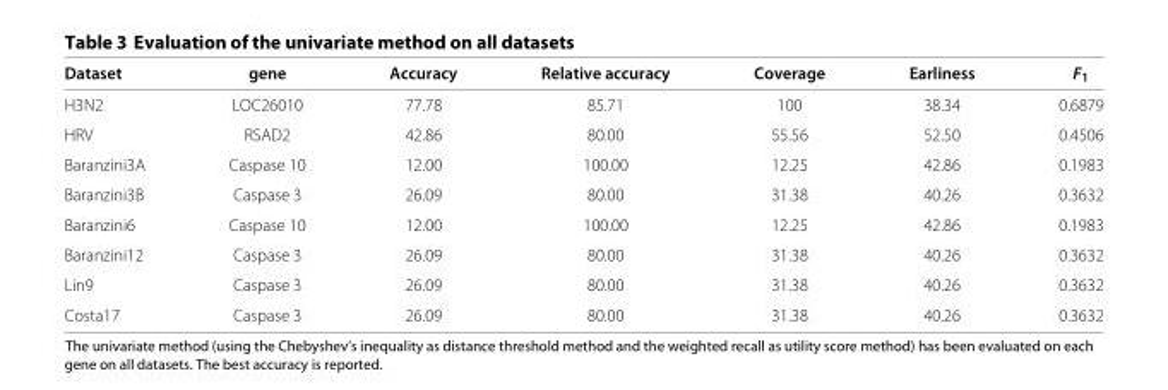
<table><thead><tr><td>Dataset</td><td>gene</td><td>Accuracy</td><td>Relative accuracy</td><td>Coverage</td><td>Earliness</td><td>F<sub>1</sub></td></tr></thead><tbody><tr><td>H3N2</td><td>LOC26010</td><td>77.78</td><td>85.71</td><td>100</td><td>38.34</td><td>0.6879</td></tr><tr><td>HRV</td><td>RSAD2</td><td>42.86</td><td>80.00</td><td>55.56</td><td>52.50</td><td>0.4506</td></tr><tr><td>Baranzini3A</td><td>Caspase 10</td><td>12.00</td><td>100.00</td><td>12.25</td><td>42.86</td><td>0.1983</td></tr><tr><td>Baranzini3B</td><td>Caspase 3</td><td>26.09</td><td>80.00</td><td>31.38</td><td>40.26</td><td>0.3632</td></tr><tr><td>Baranzini6</td><td>Caspase 10</td><td>12.00</td><td>100.00</td><td>12.25</td><td>42.86</td><td>0.1983</td></tr><tr><td>Baranzini12</td><td>Caspase 3</td><td>26.09</td><td>80.00</td><td>31.38</td><td>40.26</td><td>0.3632</td></tr><tr><td>Lin9</td><td>Caspase 3</td><td>26.09</td><td>80.00</td><td>31.38</td><td>40.26</td><td>0.3632</td></tr><tr><td>Costa17</td><td>Caspase 3</td><td>26.09</td><td>80.00</td><td>31.38</td><td>40.26</td><td>0.3632</td></tr></tbody></table>